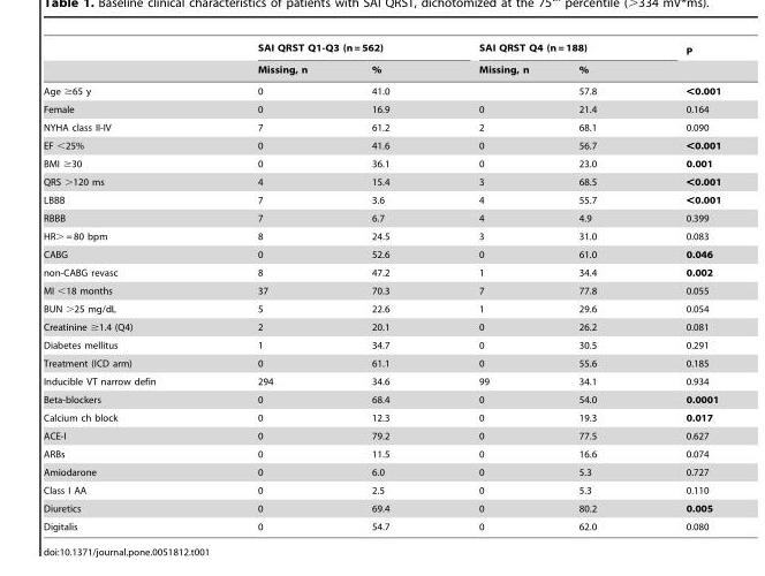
<table><thead><tr><td rowspan="2"></td><td colspan="2">SAI QRST Q1-Q3 (n = 562)</td><td colspan="2">SAI QRST Q4 (n = 188)</td><td rowspan="2">P</td></tr><tr><td>Missing, n</td><td>%</td><td>Missing, n</td><td>%</td></tr></thead><tbody><tr><td>Age ≥65 y</td><td>0</td><td>41.0</td><td></td><td>57.8</td><td>&lt;0.001</td></tr><tr><td>Female</td><td>0</td><td>16.9</td><td>0</td><td>21.4</td><td>0.164</td></tr><tr><td>NYHA class II-IV</td><td>7</td><td>61.2</td><td>2</td><td>68.1</td><td>0.090</td></tr><tr><td>EF &lt;25%</td><td>0</td><td>41.6</td><td>0</td><td>56.7</td><td>&lt;0.001</td></tr><tr><td>BMI ≥30</td><td>0</td><td>36.1</td><td>0</td><td>23.0</td><td>0.001</td></tr><tr><td>QRS &gt;120 ms</td><td>4</td><td>15.4</td><td>3</td><td>68.5</td><td>&lt;0.001</td></tr><tr><td>LBBB</td><td>7</td><td>3.6</td><td>4</td><td>55.7</td><td>&lt;0.001</td></tr><tr><td>RBBB</td><td>7</td><td>6.7</td><td>4</td><td>4.9</td><td>0.399</td></tr><tr><td>HR&gt; = 80 bpm</td><td>8</td><td>24.5</td><td>3</td><td>31.0</td><td>0.083</td></tr><tr><td>CABG</td><td>0</td><td>52.6</td><td>0</td><td>61.0</td><td>0.046</td></tr><tr><td>non-CABG revasc</td><td>8</td><td>47.2</td><td>1</td><td>34.4</td><td>0.002</td></tr><tr><td>MI &lt;18 months</td><td>37</td><td>70.3</td><td>7</td><td>77.8</td><td>0.055</td></tr><tr><td>BUN &gt;25 mg/dL</td><td>5</td><td>22.6</td><td>1</td><td>29.6</td><td>0.054</td></tr><tr><td>Creatinine ≥1.4 (Q4)</td><td>2</td><td>20.1</td><td>0</td><td>26.2</td><td>0.081</td></tr><tr><td>Diabetes mellitus</td><td>1</td><td>34.7</td><td>0</td><td>30.5</td><td>0.291</td></tr><tr><td>Treatment (ICD arm)</td><td>0</td><td>61.1</td><td>0</td><td>55.6</td><td>0.185</td></tr><tr><td>Inducible VT narrow defin</td><td>294</td><td>34.6</td><td>99</td><td>34.1</td><td>0.934</td></tr><tr><td>Beta-blockers</td><td>0</td><td>68.4</td><td>0</td><td>54.0</td><td>0.0001</td></tr><tr><td>Calcium ch block</td><td>0</td><td>12.3</td><td>0</td><td>19.3</td><td>0.017</td></tr><tr><td>ACE-I</td><td>0</td><td>79.2</td><td>0</td><td>77.5</td><td>0.627</td></tr><tr><td>ARBs</td><td>0</td><td>11.5</td><td>0</td><td>16.6</td><td>0.074</td></tr><tr><td>Amiodarone</td><td>0</td><td>6.0</td><td>0</td><td>5.3</td><td>0.727</td></tr><tr><td>Class I AA</td><td>0</td><td>2.5</td><td>0</td><td>5.3</td><td>0.110</td></tr><tr><td>Diuretics</td><td>0</td><td>69.4</td><td>0</td><td>80.2</td><td>0.005</td></tr><tr><td>Digitalis</td><td>0</td><td>54.7</td><td>0</td><td>62.0</td><td>0.080</td></tr></tbody></table>